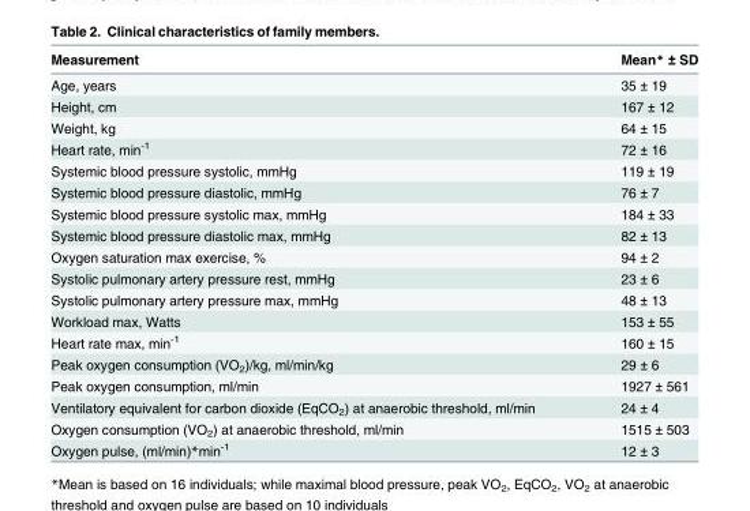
<table><thead><tr><td>Measurement</td><td>Mean* ± SD</td></tr></thead><tbody><tr><td>Age, years</td><td>35 ± 19</td></tr><tr><td>Height, cm</td><td>167 ± 12</td></tr><tr><td>Weight, kg</td><td>64 ± 15</td></tr><tr><td>Heart rate, min<sup>-1</sup></td><td>72 ± 16</td></tr><tr><td>Systemic blood pressure systolic, mmHg</td><td>119 ± 19</td></tr><tr><td>Systemic blood pressure diastolic, mmHg</td><td>76 ± 7</td></tr><tr><td>Systemic blood pressure systolic max, mmHg</td><td>184 ± 33</td></tr><tr><td>Systemic blood pressure diastolic max, mmHg</td><td>82 ± 13</td></tr><tr><td>Oxygen saturation max exercise, %</td><td>94 ± 2</td></tr><tr><td>Systolic pulmonary artery pressure rest, mmHg</td><td>23 ± 6</td></tr><tr><td>Systolic pulmonary artery pressure max, mmHg</td><td>48 ± 13</td></tr><tr><td>Workload max, Watts</td><td>153 ± 55</td></tr><tr><td>Heart rate max, min<sup>-1</sup></td><td>160 ± 15</td></tr><tr><td>Peak oxygen consumption (VO<sub>2</sub>)/kg, ml/min/kg</td><td>29 ± 6</td></tr><tr><td>Peak oxygen consumption, ml/min</td><td>1927 ± 561</td></tr><tr><td>Ventilatory equivalent for carbon dioxide (EqCO<sub>2</sub>) at anaerobic threshold, ml/min</td><td>24 ± 4</td></tr><tr><td>Oxygen consumption (VO<sub>2</sub>) at anaerobic threshold, ml/min</td><td>1515 ± 503</td></tr><tr><td>Oxygen pulse, (ml/min)*min<sup>-1</sup></td><td>12 ± 3</td></tr></tbody></table>